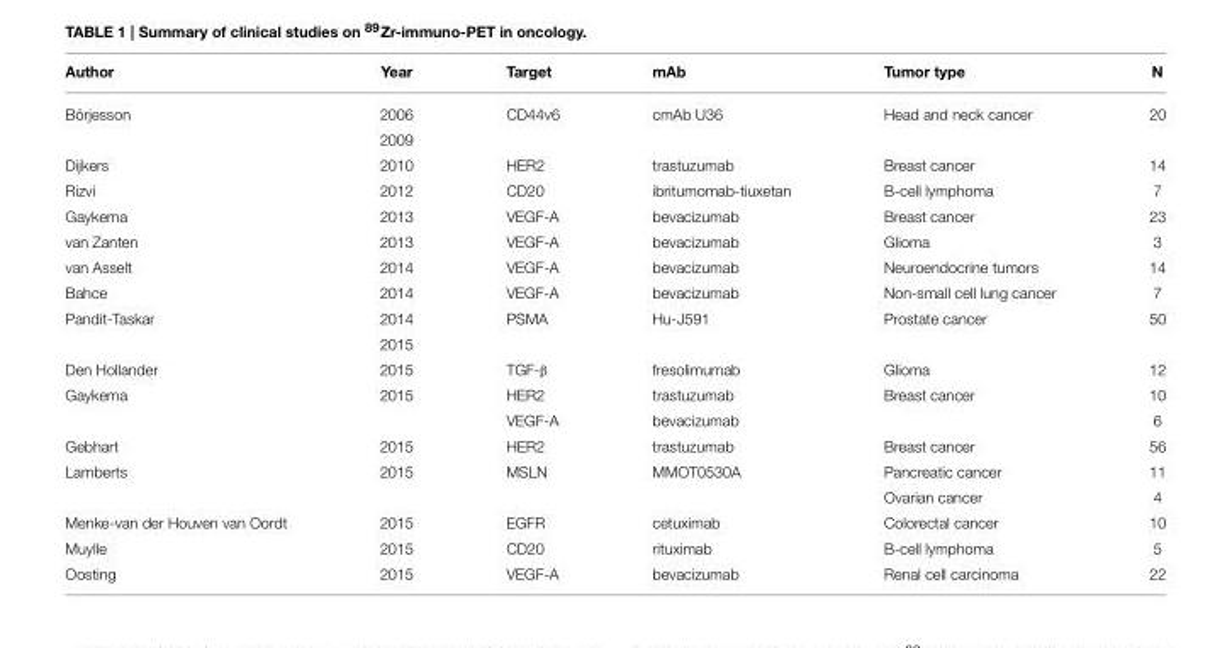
<table><thead><tr><td>Author</td><td>Year</td><td>Target</td><td>mAb</td><td>Tumor type</td><td>N</td></tr></thead><tbody><tr><td rowspan="2">Börjesson</td><td>2006</td><td>CD44v6</td><td>cmAb U36</td><td>Head and neck cancer</td><td>20</td></tr><tr><td>2009</td><td></td><td></td><td></td><td></td></tr><tr><td>Dijkers</td><td>2010</td><td>HER2</td><td>trastuzumab</td><td>Breast cancer</td><td>14</td></tr><tr><td>Rizvi</td><td>2012</td><td>CD20</td><td>ibritumomab-tiuxetan</td><td>B-cell lymphoma</td><td>7</td></tr><tr><td>Gaykema</td><td>2013</td><td>VEGF-A</td><td>bevacizumab</td><td>Breast cancer</td><td>23</td></tr><tr><td>van Zanten</td><td>2013</td><td>VEGF-A</td><td>bevacizumab</td><td>Glioma</td><td>3</td></tr><tr><td>van Asselt</td><td>2014</td><td>VEGF-A</td><td>bevacizumab</td><td>Neuroendocrine tumors</td><td>14</td></tr><tr><td>Bahce</td><td>2014</td><td>VEGF-A</td><td>bevacizumab</td><td>Non-small cell lung cancer</td><td>7</td></tr><tr><td rowspan="2">Pandit-Taskar</td><td>2014</td><td>PSMA</td><td>Hu-J591</td><td>Prostate cancer</td><td>50</td></tr><tr><td>2015</td><td></td><td></td><td></td><td></td></tr><tr><td>Den Hollander</td><td>2015</td><td>TGF-β</td><td>fresolimumab</td><td>Glioma</td><td>12</td></tr><tr><td rowspan="2">Gaykema</td><td>2015</td><td>HER2</td><td>trastuzumab</td><td>Breast cancer</td><td>10</td></tr><tr><td></td><td>VEGF-A</td><td>bevacizumab</td><td></td><td>6</td></tr><tr><td>Gebhart</td><td>2015</td><td>HER2</td><td>trastuzumab</td><td>Breast cancer</td><td>56</td></tr><tr><td rowspan="2">Lamberts</td><td>2015</td><td>MSLN</td><td>MMOT0530A</td><td>Pancreatic cancer</td><td>11</td></tr><tr><td></td><td></td><td></td><td>Ovarian cancer</td><td>4</td></tr><tr><td>Menke-van der Houven van Oordt</td><td>2015</td><td>EGFR</td><td>cetuximab</td><td>Colorectal cancer</td><td>10</td></tr><tr><td>Muylle</td><td>2015</td><td>CD20</td><td>rituximab</td><td>B-cell lymphoma</td><td>5</td></tr><tr><td>Oosting</td><td>2015</td><td>VEGF-A</td><td>bevacizumab</td><td>Renal cell carcinoma</td><td>22</td></tr></tbody></table>